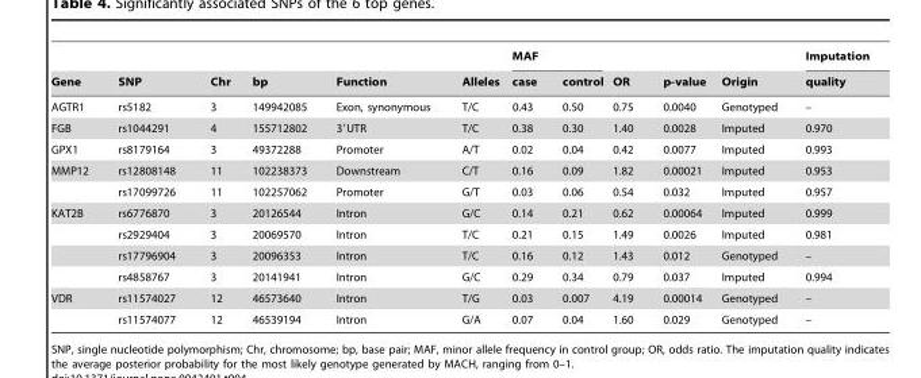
<table><thead><tr><td rowspan="2">Gene</td><td rowspan="2">SNP</td><td rowspan="2">Chr</td><td rowspan="2">bp</td><td rowspan="2">Function</td><td rowspan="2">Alleles</td><td colspan="2">MAF</td><td rowspan="2">OR</td><td rowspan="2">p-value</td><td rowspan="2">Origin</td><td rowspan="2">Imputation quality</td></tr><tr><td>case</td><td>control</td></tr></thead><tbody><tr><td>AGTR1</td><td>rs5182</td><td>3</td><td>149942085</td><td>Exon, synonymous</td><td>T/C</td><td>0.43</td><td>0.50</td><td>0.75</td><td>0.0040</td><td>Genotyped</td><td>–</td></tr><tr><td>FGB</td><td>rs1044291</td><td>4</td><td>155712802</td><td>3′UTR</td><td>T/C</td><td>0.38</td><td>0.30</td><td>1.40</td><td>0.0028</td><td>Imputed</td><td>0.970</td></tr><tr><td>GPX1</td><td>rs8179164</td><td>3</td><td>49372288</td><td>Promoter</td><td>A/T</td><td>0.02</td><td>0.04</td><td>0.42</td><td>0.0077</td><td>Imputed</td><td>0.993</td></tr><tr><td rowspan="2">MMP12</td><td>rs12808148</td><td>11</td><td>102238373</td><td>Downstream</td><td>C/T</td><td>0.16</td><td>0.09</td><td>1.82</td><td>0.00021</td><td>Imputed</td><td>0.953</td></tr><tr><td>rs17099726</td><td>11</td><td>102257062</td><td>Promoter</td><td>G/T</td><td>0.03</td><td>0.06</td><td>0.54</td><td>0.032</td><td>Imputed</td><td>0.957</td></tr><tr><td rowspan="4">KAT2B</td><td>rs6776870</td><td>3</td><td>20126544</td><td>Intron</td><td>G/C</td><td>0.14</td><td>0.21</td><td>0.62</td><td>0.00064</td><td>Imputed</td><td>0.999</td></tr><tr><td>rs2929404</td><td>3</td><td>20069570</td><td>Intron</td><td>T/C</td><td>0.21</td><td>0.15</td><td>1.49</td><td>0.0026</td><td>Imputed</td><td>0.981</td></tr><tr><td>rs17796904</td><td>3</td><td>20096353</td><td>Intron</td><td>T/C</td><td>0.16</td><td>0.12</td><td>1.43</td><td>0.012</td><td>Genotyped</td><td>–</td></tr><tr><td>rs4858767</td><td>3</td><td>20141941</td><td>Intron</td><td>G/C</td><td>0.29</td><td>0.34</td><td>0.79</td><td>0.037</td><td>Imputed</td><td>0.994</td></tr><tr><td rowspan="2">VDR</td><td>rs11574027</td><td>12</td><td>46573640</td><td>Intron</td><td>T/G</td><td>0.03</td><td>0.007</td><td>4.19</td><td>0.00014</td><td>Genotyped</td><td>–</td></tr><tr><td>rs11574077</td><td>12</td><td>46539194</td><td>Intron</td><td>G/A</td><td>0.07</td><td>0.04</td><td>1.60</td><td>0.029</td><td>Genotyped</td><td>–</td></tr></tbody></table>